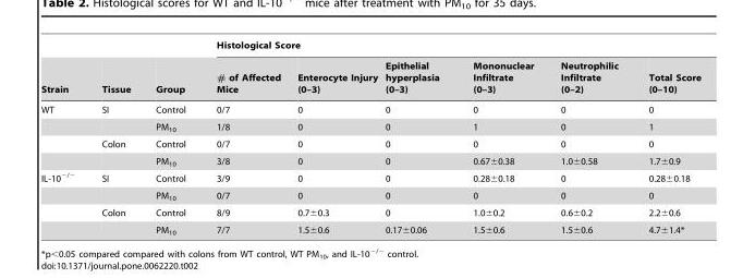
<table><thead><tr><td rowspan="2">Strain</td><td rowspan="2">Tissue</td><td rowspan="2">Group</td><td colspan="6">Histological Score</td></tr><tr><td># of Affected Mice</td><td>Enterocyte Injury (0–3)</td><td>Epithelial hyperplasia (0–3)</td><td>Mononuclear Infiltrate (0–3)</td><td>Neutrophilic Infiltrate (0–2)</td><td>Total Score (0–10)</td></tr></thead><tbody><tr><td rowspan="4">WT</td><td>SI</td><td>Control</td><td>0/7</td><td>0</td><td>0</td><td>0</td><td>0</td><td>0</td></tr><tr><td></td><td>PM<sub>10</sub></td><td>1/8</td><td>0</td><td>0</td><td>1</td><td>0</td><td>1</td></tr><tr><td>Colon</td><td>Control</td><td>0/7</td><td>0</td><td>0</td><td>0</td><td>0</td><td>0</td></tr><tr><td></td><td>PM<sub>10</sub></td><td>3/8</td><td>0</td><td>0</td><td>0.67±0.38</td><td>1.0±0.58</td><td>1.7±0.9</td></tr><tr><td rowspan="4">IL-10<sup>−/−</sup></td><td>SI</td><td>Control</td><td>3/9</td><td>0</td><td>0</td><td>0.28±0.18</td><td>0</td><td>0.28±0.18</td></tr><tr><td></td><td>PM<sub>10</sub></td><td>0/7</td><td>0</td><td>0</td><td>0</td><td>0</td><td>0</td></tr><tr><td>Colon</td><td>Control</td><td>8/9</td><td>0.7±0.3</td><td>0</td><td>1.0±0.2</td><td>0.6±0.2</td><td>2.2±0.6</td></tr><tr><td></td><td>PM<sub>10</sub></td><td>7/7</td><td>1.5±0.6</td><td>0.17±0.06</td><td>1.5±0.6</td><td>1.5±0.6</td><td>4.7±1.4*</td></tr></tbody></table>